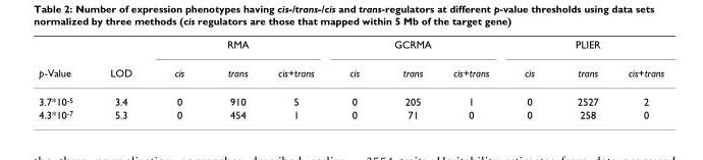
<table><thead><tr><td rowspan="2">p-Value</td><td rowspan="2">LOD</td><td colspan="3">RMA</td><td colspan="3">GCRMA</td><td colspan="3">PLIER</td></tr><tr><td>cis</td><td>trans</td><td>cis+trans</td><td>cis</td><td>trans</td><td>cis+trans</td><td>cis</td><td>trans</td><td>cis+trans</td></tr></thead><tbody><tr><td>3.7*10<sup>-5</sup></td><td>3.4</td><td>0</td><td>910</td><td>5</td><td>0</td><td>205</td><td>1</td><td>0</td><td>2527</td><td>2</td></tr><tr><td>4.3*10<sup>-7</sup></td><td>5.3</td><td>0</td><td>454</td><td>1</td><td>0</td><td>71</td><td>0</td><td>0</td><td>258</td><td>0</td></tr></tbody></table>